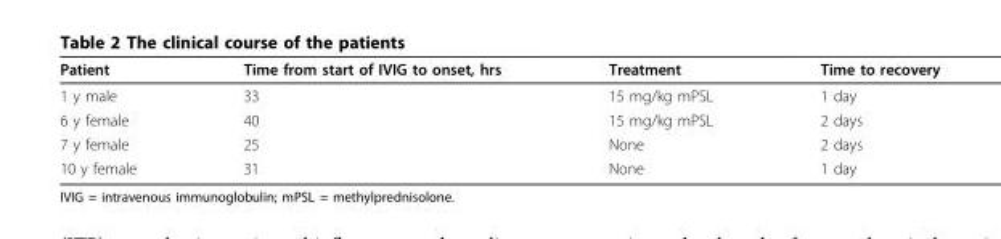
<table><thead><tr><td>Patient</td><td>Time from start of IVIG to onset, hrs</td><td>Treatment</td><td>Time to recovery</td></tr></thead><tbody><tr><td>1 y male</td><td>33</td><td>15 mg/kg mPSL</td><td>1 day</td></tr><tr><td>6 y female</td><td>40</td><td>15 mg/kg mPSL</td><td>2 days</td></tr><tr><td>7 y female</td><td>25</td><td>None</td><td>2 days</td></tr><tr><td>10 y female</td><td>31</td><td>None</td><td>1 day</td></tr></tbody></table>